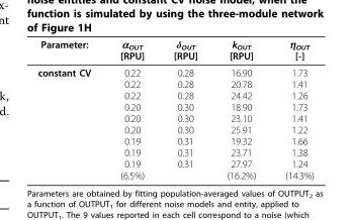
<table><thead><tr><td>Parameter:</td><td>α<sub>OUT</sub> [RPU]</td><td>δ<sub>OUT</sub> [RPU]</td><td>k<sub>OUT</sub> [RPU]</td><td>η<sub>OUT</sub> [-]</td></tr></thead><tbody><tr><td>constant CV</td><td>0.22 0.22 0.22 0.20 0.20 0.20 0.19 0.19 0.19 (6.5%)</td><td>0.28 0.28 0.28 0.30 0.30 0.30 0.31 0.31 0.31</td><td>16.90 20.78 24.42 18.90 23.10 25.91 19.32 23.71 27.97 (16.2%)</td><td>1.73 1.41 1.26 1.73 1.41 1.22 1.66 1.38 1.24 (14.3%)</td></tr></tbody></table>